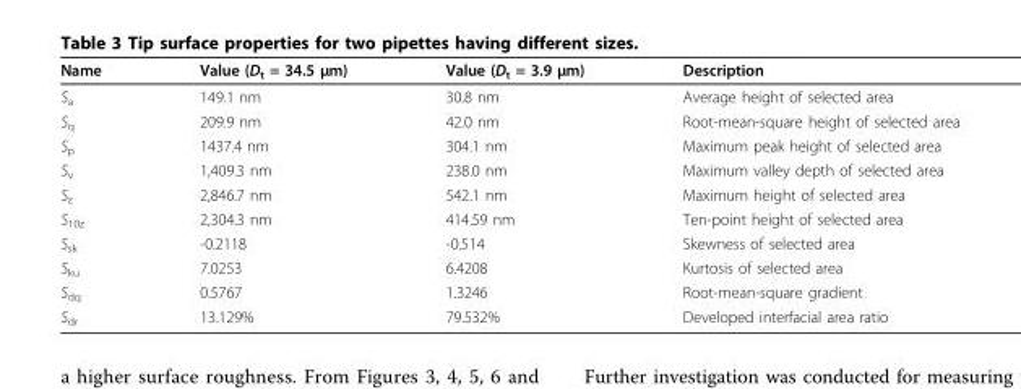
<table><thead><tr><td>Name</td><td>Value (D<sub>t</sub> = 34.5 μm)</td><td>Value (D<sub>t</sub> = 3.9 μm)</td><td>Description</td></tr></thead><tbody><tr><td>S<sub>a</sub></td><td>149.1 nm</td><td>30.8 nm</td><td>Average height of selected area</td></tr><tr><td>S<sub>q</sub></td><td>209.9 nm</td><td>42.0 nm</td><td>Root-mean-square height of selected area</td></tr><tr><td>S<sub>p</sub></td><td>1437.4 nm</td><td>304.1 nm</td><td>Maximum peak height of selected area</td></tr><tr><td>S<sub>v</sub></td><td>1,409.3 nm</td><td>238.0 nm</td><td>Maximum valley depth of selected area</td></tr><tr><td>S<sub>z</sub></td><td>2,846.7 nm</td><td>542.1 nm</td><td>Maximum height of selected area</td></tr><tr><td>S<sub>10z</sub></td><td>2,304.3 nm</td><td>414.59 nm</td><td>Ten-point height of selected area</td></tr><tr><td>S<sub>sk</sub></td><td>-0.2118</td><td>-0.514</td><td>Skewness of selected area</td></tr><tr><td>S<sub>ku</sub></td><td>7.0253</td><td>6.4208</td><td>Kurtosis of selected area</td></tr><tr><td>S<sub>dq</sub></td><td>0.5767</td><td>1.3246</td><td>Root-mean-square gradient</td></tr><tr><td>S<sub>dr</sub></td><td>13.129%</td><td>79.532%</td><td>Developed interfacial area ratio</td></tr></tbody></table>